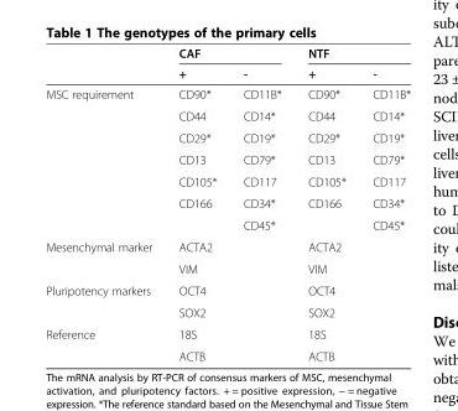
<table><thead><tr><td rowspan="2"></td><td colspan="2">CAF</td><td colspan="2">NTF</td></tr><tr><td>+</td><td>-</td><td>+</td><td>-</td></tr></thead><tbody><tr><td rowspan="7">MSC requirement</td><td>CD90*</td><td>CD11B*</td><td>CD90*</td><td>CD11B*</td></tr><tr><td>CD44</td><td>CD14*</td><td>CD44</td><td>CD14*</td></tr><tr><td>CD29*</td><td>CD19*</td><td>CD29*</td><td>CD19*</td></tr><tr><td>CD13</td><td>CD79*</td><td>CD13</td><td>CD79*</td></tr><tr><td>CD105*</td><td>CD117</td><td>CD105*</td><td>CD117</td></tr><tr><td>CD166</td><td>CD34*</td><td>CD166</td><td>CD34*</td></tr><tr><td></td><td>CD45*</td><td></td><td>CD45*</td></tr><tr><td rowspan="2">Mesenchymal marker</td><td>ACTA2</td><td></td><td>ACTA2</td><td></td></tr><tr><td>VIM</td><td></td><td>VIM</td><td></td></tr><tr><td rowspan="2">Pluripotency markers</td><td>OCT4</td><td></td><td>OCT4</td><td></td></tr><tr><td>SOX2</td><td></td><td>SOX2</td><td></td></tr><tr><td rowspan="2">Reference</td><td>18S</td><td></td><td>18S</td><td></td></tr><tr><td>ACTB</td><td></td><td>ACTB</td><td></td></tr></tbody></table>